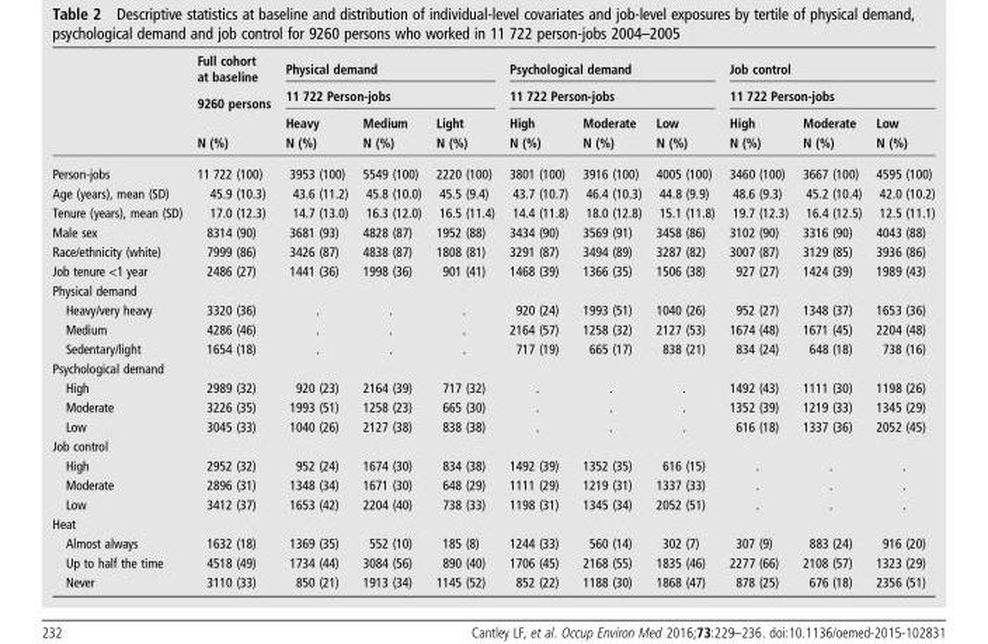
<table><thead><tr><td rowspan="4"></td><td rowspan="4">Full cohort at baseline 9260 persons N (%)</td><td rowspan="2" colspan="3">Physical demand 11 722 Person-jobs</td><td rowspan="2" colspan="3">Psychological demand 11 722 Person-jobs</td><td rowspan="2" colspan="3">Job control 11 722 Person-jobs</td></tr><tr></tr><tr><td rowspan="2">Heavy N (%)</td><td rowspan="2">Medium N (%)</td><td rowspan="2">Light N (%)</td><td rowspan="2">High N (%)</td><td rowspan="2">Moderate N (%)</td><td rowspan="2">Low N (%)</td><td rowspan="2">High N (%)</td><td rowspan="2">Moderate N (%)</td><td rowspan="2">Low N (%)</td></tr><tr></tr></thead><tbody><tr><td>Person-jobs</td><td>11 722 (100)</td><td>3953 (100)</td><td>5549 (100)</td><td>2220 (100)</td><td>3801 (100)</td><td>3916 (100)</td><td>4005 (100)</td><td>3460 (100)</td><td>3667 (100)</td><td>4595 (100)</td></tr><tr><td>Age (years), mean (SD)</td><td>45.9 (10.3)</td><td>43.6 (11.2)</td><td>45.8 (10.0)</td><td>45.5 (9.4)</td><td>43.7 (10.7)</td><td>46.4 (10.3)</td><td>44.8 (9.9)</td><td>48.6 (9.3)</td><td>45.2 (10.4)</td><td>42.0 (10.2)</td></tr><tr><td>Tenure (years), mean (SD)</td><td>17.0 (12.3)</td><td>14.7 (13.0)</td><td>16.3 (12.0)</td><td>16.5 (11.4)</td><td>14.4 (11.8)</td><td>18.0 (12.8)</td><td>15.1 (11.8)</td><td>19.7 (12.3)</td><td>16.4 (12.5)</td><td>12.5 (11.1)</td></tr><tr><td>Male sex</td><td>8314 (90)</td><td>3681 (93)</td><td>4828 (87)</td><td>1952 (88)</td><td>3434 (90)</td><td>3569 (91)</td><td>3458 (86)</td><td>3102 (90)</td><td>3316 (90)</td><td>4043 (88)</td></tr><tr><td>Race/ethnicity (white)</td><td>7999 (86)</td><td>3426 (87)</td><td>4838 (87)</td><td>1808 (81)</td><td>3291 (87)</td><td>3494 (89)</td><td>3287 (82)</td><td>3007 (87)</td><td>3129 (85)</td><td>3936 (86)</td></tr><tr><td>Job tenure &lt;1 year</td><td>2486 (27)</td><td>1441 (36)</td><td>1998 (36)</td><td>901 (41)</td><td>1468 (39)</td><td>1366 (35)</td><td>1506 (38)</td><td>927 (27)</td><td>1424 (39)</td><td>1989 (43)</td></tr><tr><td colspan="11">Physical demand</td></tr><tr><td>Heavy/very heavy</td><td>3320 (36)</td><td>.</td><td>.</td><td>.</td><td>920 (24)</td><td>1993 (51)</td><td>1040 (26)</td><td>952 (27)</td><td>1348 (37)</td><td>1653 (36)</td></tr><tr><td>Medium</td><td>4286 (46)</td><td>.</td><td>.</td><td>.</td><td>2164 (57)</td><td>1258 (32)</td><td>2127 (53)</td><td>1674 (48)</td><td>1671 (45)</td><td>2204 (48)</td></tr><tr><td>Sedentary/light</td><td>1654 (18)</td><td>.</td><td>.</td><td>.</td><td>717 (19)</td><td>665 (17)</td><td>838 (21)</td><td>834 (24)</td><td>648 (18)</td><td>738 (16)</td></tr><tr><td colspan="11">Psychological demand</td></tr><tr><td>High</td><td>2989 (32)</td><td>920 (23)</td><td>2164 (39)</td><td>717 (32)</td><td>.</td><td>.</td><td>.</td><td>1492 (43)</td><td>1111 (30)</td><td>1198 (26)</td></tr><tr><td>Moderate</td><td>3226 (35)</td><td>1993 (51)</td><td>1258 (23)</td><td>665 (30)</td><td>.</td><td>.</td><td>.</td><td>1352 (39)</td><td>1219 (33)</td><td>1345 (29)</td></tr><tr><td>Low</td><td>3045 (33)</td><td>1040 (26)</td><td>2127 (38)</td><td>838 (38)</td><td>.</td><td>.</td><td>.</td><td>616 (18)</td><td>1337 (36)</td><td>2052 (45)</td></tr><tr><td colspan="11">Job control</td></tr><tr><td>High</td><td>2952 (32)</td><td>952 (24)</td><td>1674 (30)</td><td>834 (38)</td><td>1492 (39)</td><td>1352 (35)</td><td>616 (15)</td><td>.</td><td>.</td><td>.</td></tr><tr><td>Moderate</td><td>2896 (31)</td><td>1348 (34)</td><td>1671 (30)</td><td>648 (29)</td><td>1111 (29)</td><td>1219 (31)</td><td>1337 (33)</td><td>.</td><td>.</td><td>.</td></tr><tr><td>Low</td><td>3412 (37)</td><td>1653 (42)</td><td>2204 (40)</td><td>738 (33)</td><td>1198 (31)</td><td>1345 (34)</td><td>2052 (51)</td><td>.</td><td>.</td><td>.</td></tr><tr><td colspan="11">Heat</td></tr><tr><td>Almost always</td><td>1632 (18)</td><td>1369 (35)</td><td>552 (10)</td><td>185 (8)</td><td>1244 (33)</td><td>560 (14)</td><td>302 (7)</td><td>307 (9)</td><td>883 (24)</td><td>916 (20)</td></tr><tr><td>Up to half the time</td><td>4518 (49)</td><td>1734 (44)</td><td>3084 (56)</td><td>890 (40)</td><td>1706 (45)</td><td>2168 (55)</td><td>1835 (46)</td><td>2277 (66)</td><td>2108 (57)</td><td>1323 (29)</td></tr><tr><td>Never</td><td>3110 (33)</td><td>850 (21)</td><td>1913 (34)</td><td>1145 (52)</td><td>852 (22)</td><td>1188 (30)</td><td>1868 (47)</td><td>878 (25)</td><td>676 (18)</td><td>2356 (51)</td></tr></tbody></table>